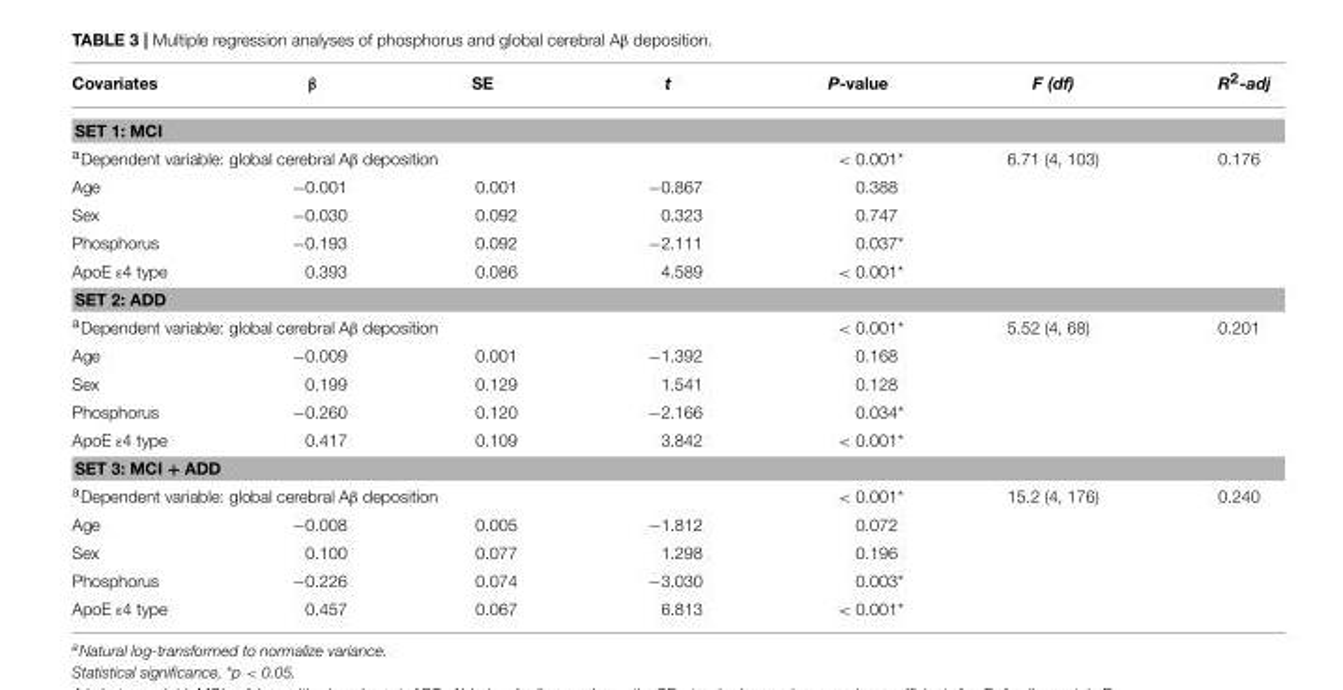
<table><thead><tr><td>Covariates</td><td>β</td><td>SE</td><td>t</td><td>P-value</td><td>F (df)</td><td>R<sup>2</sup>-adj</td></tr></thead><tbody><tr><td colspan="7">SET 1: MCI</td></tr><tr><td colspan="4"><sup>a</sup>Dependent variable: global cerebral Aβ deposition</td><td>&lt; 0.001*</td><td>6.71 (4, 103)</td><td>0.176</td></tr><tr><td>Age</td><td>−0.001</td><td>0.001</td><td>−0.867</td><td>0.388</td><td></td><td></td></tr><tr><td>Sex</td><td>−0.030</td><td>0.092</td><td>0.323</td><td>0.747</td><td></td><td></td></tr><tr><td>Phosphorus</td><td>−0.193</td><td>0.092</td><td>−2.111</td><td>0.037*</td><td></td><td></td></tr><tr><td>ApoE ε4 type</td><td>0.393</td><td>0.086</td><td>4.589</td><td>&lt; 0.001*</td><td></td><td></td></tr><tr><td colspan="7">SET 2: ADD</td></tr><tr><td colspan="4"><sup>a</sup>Dependent variable: global cerebral Aβ deposition</td><td>&lt; 0.001*</td><td>5.52 (4, 68)</td><td>0.201</td></tr><tr><td>Age</td><td>−0.009</td><td>0.001</td><td>−1.392</td><td>0.168</td><td></td><td></td></tr><tr><td>Sex</td><td>0.199</td><td>0.129</td><td>1.541</td><td>0.128</td><td></td><td></td></tr><tr><td>Phosphorus</td><td>−0.260</td><td>0.120</td><td>−2.166</td><td>0.034*</td><td></td><td></td></tr><tr><td>ApoE ε4 type</td><td>0.417</td><td>0.109</td><td>3.842</td><td>&lt; 0.001*</td><td></td><td></td></tr><tr><td colspan="7">SET 3: MCI + ADD</td></tr><tr><td colspan="4"><sup>a</sup>Dependent variable: global cerebral Aβ deposition</td><td>&lt; 0.001*</td><td>15.2 (4, 176)</td><td>0.240</td></tr><tr><td>Age</td><td>−0.008</td><td>0.005</td><td>−1.812</td><td>0.072</td><td></td><td></td></tr><tr><td>Sex</td><td>0.100</td><td>0.077</td><td>1.298</td><td>0.196</td><td></td><td></td></tr><tr><td>Phosphorus</td><td>−0.226</td><td>0.074</td><td>−3.030</td><td>0.003*</td><td></td><td></td></tr><tr><td>ApoE ε4 type</td><td>0.457</td><td>0.067</td><td>6.813</td><td>&lt; 0.001*</td><td></td><td></td></tr></tbody></table>